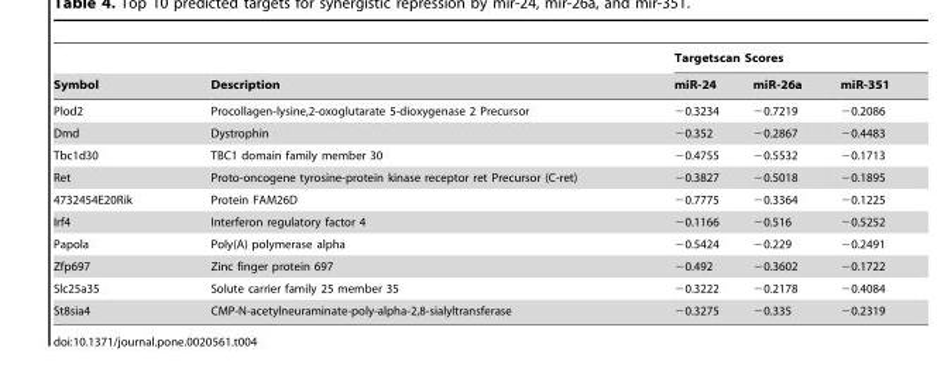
<table><thead><tr><td rowspan="2">Symbol</td><td rowspan="2">Description</td><td colspan="3">Targetscan Scores</td></tr><tr><td>miR-24</td><td>miR-26a</td><td>miR-351</td></tr></thead><tbody><tr><td>Plod2</td><td>Procollagen-lysine,2-oxoglutarate 5-dioxygenase 2 Precursor</td><td>−0.3234</td><td>−0.7219</td><td>−0.2086</td></tr><tr><td>Dmd</td><td>Dystrophin</td><td>−0.352</td><td>−0.2867</td><td>−0.4483</td></tr><tr><td>Tbc1d30</td><td>TBC1 domain family member 30</td><td>−0.4755</td><td>−0.5532</td><td>−0.1713</td></tr><tr><td>Ret</td><td>Proto-oncogene tyrosine-protein kinase receptor ret Precursor (C-ret)</td><td>−0.3827</td><td>−0.5018</td><td>−0.1895</td></tr><tr><td>4732454E20Rik</td><td>Protein FAM26D</td><td>−0.7775</td><td>−0.3364</td><td>−0.1225</td></tr><tr><td>Irf4</td><td>Interferon regulatory factor 4</td><td>−0.1166</td><td>−0.516</td><td>−0.5252</td></tr><tr><td>Papola</td><td>Poly(A) polymerase alpha</td><td>−0.5424</td><td>−0.229</td><td>−0.2491</td></tr><tr><td>Zfp697</td><td>Zinc finger protein 697</td><td>−0.492</td><td>−0.3602</td><td>−0.1722</td></tr><tr><td>Slc25a35</td><td>Solute carrier family 25 member 35</td><td>−0.3222</td><td>−0.2178</td><td>−0.4084</td></tr><tr><td>St8sia4</td><td>CMP-N-acetylneuraminate-poly-alpha-2,8-sialyltransferase</td><td>−0.3275</td><td>−0.335</td><td>−0.2319</td></tr></tbody></table>